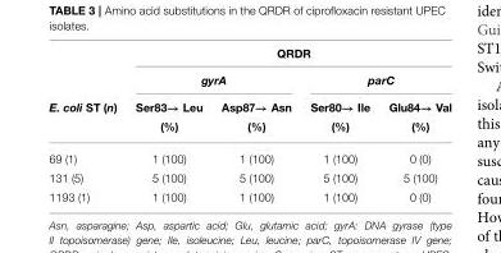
<table><thead><tr><td rowspan="4">E. coli ST (n)</td><td colspan="4">QRDR</td></tr><tr><td colspan="2">gyrA</td><td colspan="2">parC</td></tr><tr><td rowspan="2">Ser83→ Leu (%)</td><td rowspan="2">Asp87→ Asn (%)</td><td rowspan="2">Ser80→ Ile (%)</td><td rowspan="2">Glu84→ Val (%)</td></tr><tr></tr></thead><tbody><tr><td>69 (1)</td><td>1 (100)</td><td>1 (100)</td><td>1 (100)</td><td>0 (0)</td></tr><tr><td>131 (5)</td><td>5 (100)</td><td>5 (100)</td><td>5 (100)</td><td>5 (100)</td></tr><tr><td>1193 (1)</td><td>1 (100)</td><td>1 (100)</td><td>1 (100)</td><td>0 (0)</td></tr></tbody></table>